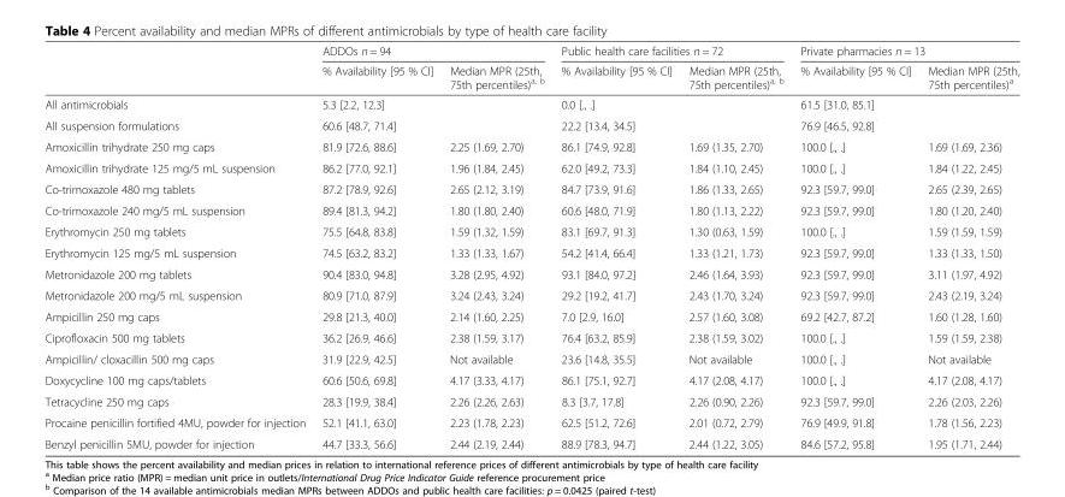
<table><thead><tr><td rowspan="2"></td><td colspan="2">ADDOs n = 94</td><td colspan="2">Public health care facilities n = 72</td><td colspan="2">Private pharmacies n = 13</td></tr><tr><td>% Availability [95 % CI]</td><td>Median MPR (25th, 75th percentiles)<sup>a, b</sup></td><td>% Availability [95 % CI]</td><td>Median MPR (25th, 75th percentiles)<sup>a, b</sup></td><td>% Availability [95 % CI]</td><td>Median MPR (25th, 75th percentiles)<sup>a</sup></td></tr></thead><tbody><tr><td>All antimicrobials</td><td>5.3 [2.2, 12.3]</td><td></td><td>0.0 [., .]</td><td></td><td>61.5 [31.0, 85.1]</td><td></td></tr><tr><td>All suspension formulations</td><td>60.6 [48.7, 71.4]</td><td></td><td>22.2 [13.4, 34.5]</td><td></td><td>76.9 [46.5, 92.8]</td><td></td></tr><tr><td>Amoxicillin trihydrate 250 mg caps</td><td>81.9 [72.6, 88.6]</td><td>2.25 (1.69, 2.70)</td><td>86.1 [74.9, 92.8]</td><td>1.69 (1.35, 2.70)</td><td>100.0 [., .]</td><td>1.69 (1.69, 2.36)</td></tr><tr><td>Amoxicillin trihydrate 125 mg/5 mL suspension</td><td>86.2 [77.0, 92.1]</td><td>1.96 (1.84, 2.45)</td><td>62.0 [49.2, 73.3]</td><td>1.84 (1.10, 2.45)</td><td>100.0 [., .]</td><td>1.84 (1.22, 2.45)</td></tr><tr><td>Co-trimoxazole 480 mg tablets</td><td>87.2 [78.9, 92.6]</td><td>2.65 (2.12, 3.19)</td><td>84.7 [73.9, 91.6]</td><td>1.86 (1.33, 2.65)</td><td>92.3 [59.7, 99.0]</td><td>2.65 (2.39, 2.65)</td></tr><tr><td>Co-trimoxazole 240 mg/5 mL suspension</td><td>89.4 [81.3, 94.2]</td><td>1.80 (1.80, 2.40)</td><td>60.6 [48.0, 71.9]</td><td>1.80 (1.13, 2.22)</td><td>92.3 [59.7, 99.0]</td><td>1.80 (1.20, 2.40)</td></tr><tr><td>Erythromycin 250 mg tablets</td><td>75.5 [64.8, 83.8]</td><td>1.59 (1.32, 1.59)</td><td>83.1 [69.7, 91.3]</td><td>1.30 (0.63, 1.59)</td><td>100.0 [., .]</td><td>1.59 (1.59, 1.59)</td></tr><tr><td>Erythromycin 125 mg/5 mL suspension</td><td>74.5 [63.2, 83.2]</td><td>1.33 (1.33, 1.67)</td><td>54.2 [41.4, 66.4]</td><td>1.33 (1.21, 1.73)</td><td>92.3 [59.7, 99.0]</td><td>1.33 (1.33, 1.50)</td></tr><tr><td>Metronidazole 200 mg tablets</td><td>90.4 [83.0, 94.8]</td><td>3.28 (2.95, 4.92)</td><td>93.1 [84.0, 97.2]</td><td>2.46 (1.64, 3.93)</td><td>92.3 [59.7, 99.0]</td><td>3.11 (1.97, 4.92)</td></tr><tr><td>Metronidazole 200 mg/5 mL suspension</td><td>80.9 [71.0, 87.9]</td><td>3.24 (2.43, 3.24)</td><td>29.2 [19.2, 41.7]</td><td>2.43 (1.70, 3.24)</td><td>92.3 [59.7, 99.0]</td><td>2.43 (2.19, 3.24)</td></tr><tr><td>Ampicillin 250 mg caps</td><td>29.8 [21.3, 40.0]</td><td>2.14 (1.60, 2.25)</td><td>7.0 [2.9, 16.0]</td><td>2.57 (1.60, 3.08)</td><td>69.2 [42.7, 87.2]</td><td>1.60 (1.28, 1.60)</td></tr><tr><td>Ciprofloxacin 500 mg tablets</td><td>36.2 [26.9, 46.6]</td><td>2.38 (1.59, 3.17)</td><td>76.4 [63.2, 85.9]</td><td>2.38 (1.59, 3.02)</td><td>100.0 [., .]</td><td>1.59 (1.59, 2.38)</td></tr><tr><td>Ampicillin/ cloxacillin 500 mg caps</td><td>31.9 [22.9, 42.5]</td><td>Not available</td><td>23.6 [14.8, 35.5]</td><td>Not available</td><td>100.0 [., .]</td><td>Not available</td></tr><tr><td>Doxycycline 100 mg caps/tablets</td><td>60.6 [50.6, 69.8]</td><td>4.17 (3.33, 4.17)</td><td>86.1 [75.1, 92.7]</td><td>4.17 (2.08, 4.17)</td><td>100.0 [., .]</td><td>4.17 (2.08, 4.17)</td></tr><tr><td>Tetracycline 250 mg caps</td><td>28.3 [19.9, 38.4]</td><td>2.26 (2.26, 2.63)</td><td>8.3 [3.7, 17.8]</td><td>2.26 (0.90, 2.26)</td><td>92.3 [59.7, 99.0]</td><td>2.26 (2.03, 2.26)</td></tr><tr><td>Procaine penicillin fortified 4MU, powder for injection</td><td>52.1 [41.1, 63.0]</td><td>2.23 (1.78, 2.23)</td><td>62.5 [51.2, 72.6]</td><td>2.01 (0.72, 2.79)</td><td>76.9 [49.9, 91.8]</td><td>1.78 (1.56, 2.23)</td></tr><tr><td>Benzyl penicillin 5MU, powder for injection</td><td>44.7 [33.3, 56.6]</td><td>2.44 (2.19, 2.44)</td><td>88.9 [78.3, 94.7]</td><td>2.44 (1.22, 3.05)</td><td>84.6 [57.2, 95.8]</td><td>1.95 (1.71, 2.44)</td></tr></tbody></table>